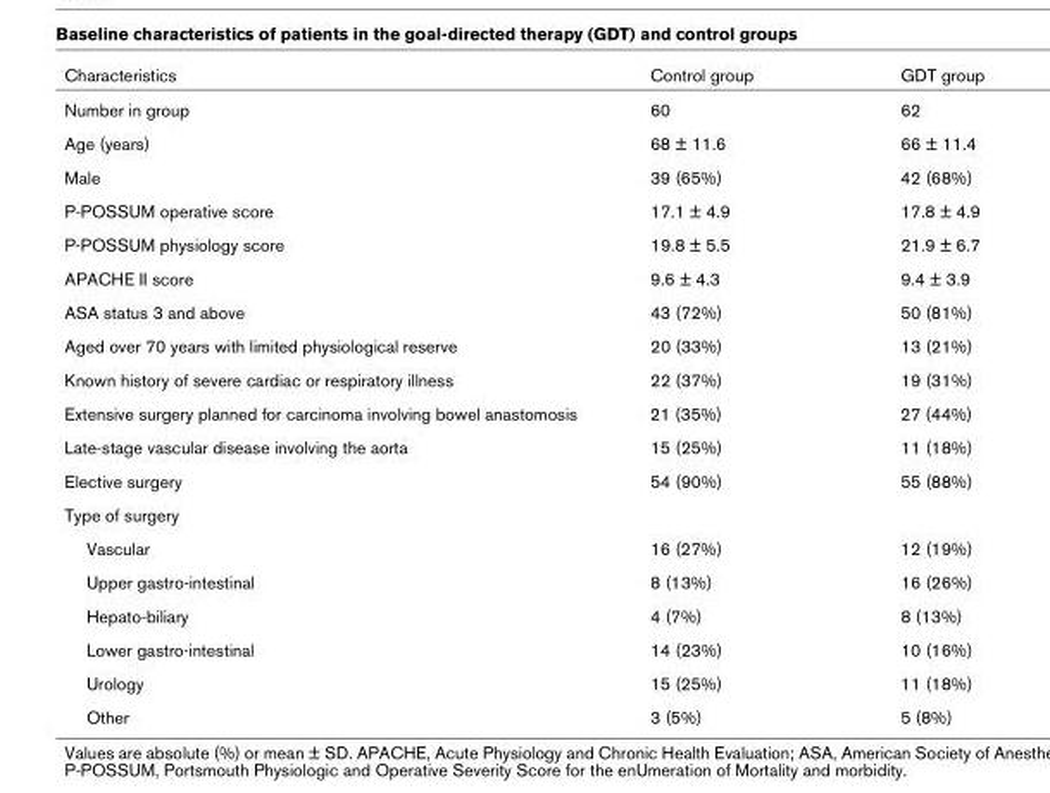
<table><thead><tr><td>Characteristics</td><td>Control group</td><td>GDT group</td></tr></thead><tbody><tr><td>Number in group</td><td>60</td><td>62</td></tr><tr><td>Age (years)</td><td>68 ± 11.6</td><td>66 ± 11.4</td></tr><tr><td>Male</td><td>39 (65%)</td><td>42 (68%)</td></tr><tr><td>P-POSSUM operative score</td><td>17.1 ± 4.9</td><td>17.8 ± 4.9</td></tr><tr><td>P-POSSUM physiology score</td><td>19.8 ± 5.5</td><td>21.9 ± 6.7</td></tr><tr><td>APACHE II score</td><td>9.6 ± 4.3</td><td>9.4 ± 3.9</td></tr><tr><td>ASA status 3 and above</td><td>43 (72%)</td><td>50 (81%)</td></tr><tr><td>Aged over 70 years with limited physiological reserve</td><td>20 (33%)</td><td>13 (21%)</td></tr><tr><td>Known history of severe cardiac or respiratory illness</td><td>22 (37%)</td><td>19 (31%)</td></tr><tr><td>Extensive surgery planned for carcinoma involving bowel anastomosis</td><td>21 (35%)</td><td>27 (44%)</td></tr><tr><td>Late-stage vascular disease involving the aorta</td><td>15 (25%)</td><td>11 (18%)</td></tr><tr><td>Elective surgery</td><td>54 (90%)</td><td>55 (88%)</td></tr><tr><td colspan="3">Type of surgery</td></tr><tr><td>Vascular</td><td>16 (27%)</td><td>12 (19%)</td></tr><tr><td>Upper gastro-intestinal</td><td>8 (13%)</td><td>16 (26%)</td></tr><tr><td>Hepato-biliary</td><td>4 (7%)</td><td>8 (13%)</td></tr><tr><td>Lower gastro-intestinal</td><td>14 (23%)</td><td>10 (16%)</td></tr><tr><td>Urology</td><td>15 (25%)</td><td>11 (18%)</td></tr><tr><td>Other</td><td>3 (5%)</td><td>5 (8%)</td></tr></tbody></table>